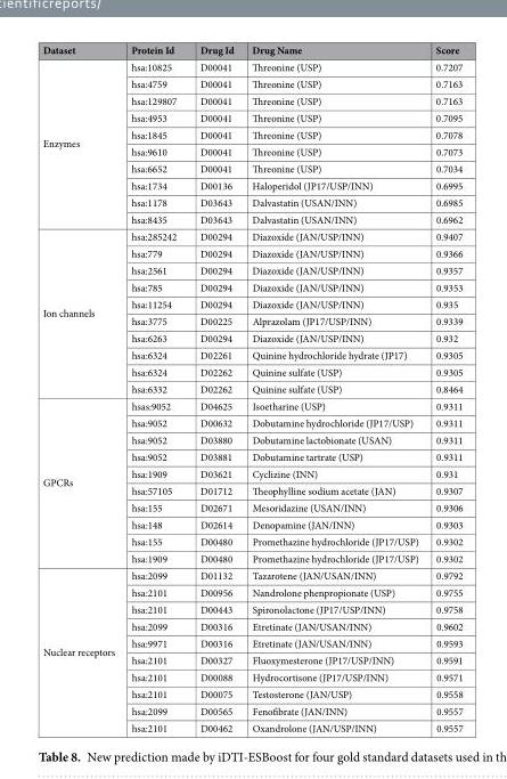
<table><thead><tr><td>Dataset</td><td>Protein Id</td><td>Drug Id</td><td>Drug Name</td><td>Score</td></tr></thead><tbody><tr><td rowspan="10">Enzymes</td><td>hsa:10825</td><td>D00041</td><td>Threonine (USP)</td><td>0.7207</td></tr><tr><td>hsa:4759</td><td>D00041</td><td>Threonine (USP)</td><td>0.7163</td></tr><tr><td>hsa:129807</td><td>D00041</td><td>Threonine (USP)</td><td>0.7163</td></tr><tr><td>hsa:4953</td><td>D00041</td><td>Threonine (USP)</td><td>0.7095</td></tr><tr><td>hsa:1845</td><td>D00041</td><td>Threonine (USP)</td><td>0.7078</td></tr><tr><td>hsa:9610</td><td>D00041</td><td>Threonine (USP)</td><td>0.7073</td></tr><tr><td>hsa:6652</td><td>D00041</td><td>Threonine (USP)</td><td>0.7034</td></tr><tr><td>hsa:1734</td><td>D00136</td><td>Haloperidol (JP17/USP/INN)</td><td>0.6995</td></tr><tr><td>hsa:1178</td><td>D03643</td><td>Dalvastatin (USAN/INN)</td><td>0.6985</td></tr><tr><td>hsa:8435</td><td>D03643</td><td>Dalvastatin (USAN/INN)</td><td>0.6962</td></tr><tr><td rowspan="10">Ion channels</td><td>hsa:285242</td><td>D00294</td><td>Diazoxide (JAN/USP/INN)</td><td>0.9407</td></tr><tr><td>hsa:779</td><td>D00294</td><td>Diazoxide (JAN/USP/INN)</td><td>0.9366</td></tr><tr><td>hsa:2561</td><td>D00294</td><td>Diazoxide (JAN/USP/INN)</td><td>0.9357</td></tr><tr><td>hsa:785</td><td>D00294</td><td>Diazoxide (JAN/USP/INN)</td><td>0.9353</td></tr><tr><td>hsa:11254</td><td>D00294</td><td>Diazoxide (JAN/USP/INN)</td><td>0.935</td></tr><tr><td>hsa:3775</td><td>D00225</td><td>Alprazolam (JP17/USP/INN)</td><td>0.9339</td></tr><tr><td>hsa:6263</td><td>D00294</td><td>Diazoxide (JAN/USP/INN)</td><td>0.932</td></tr><tr><td>hsa:6324</td><td>D02261</td><td>Quinine hydrochloride hydrate (JP17)</td><td>0.9305</td></tr><tr><td>hsa:6324</td><td>D02262</td><td>Quinine sulfate (USP)</td><td>0.9305</td></tr><tr><td>hsa:6332</td><td>D02262</td><td>Quinine sulfate (USP)</td><td>0.8464</td></tr><tr><td rowspan="10">GPCRs</td><td>hsas:9052</td><td>D04625</td><td>Isoetharine (USP)</td><td>0.9311</td></tr><tr><td>hsa:9052</td><td>D00632</td><td>Dobutamine hydrochloride (JP17/USP)</td><td>0.9311</td></tr><tr><td>hsa:9052</td><td>D03880</td><td>Dobutamine lactobionate (USAN)</td><td>0.9311</td></tr><tr><td>hsa:9052</td><td>D03881</td><td>Dobutamine tartrate (USP)</td><td>0.9311</td></tr><tr><td>hsa:1909</td><td>D03621</td><td>Cyclizine (INN)</td><td>0.931</td></tr><tr><td>hsa:57105</td><td>D01712</td><td>Theophylline sodium acetate (JAN)</td><td>0.9307</td></tr><tr><td>hsa:155</td><td>D02671</td><td>Mesoridazine (USAN/INN)</td><td>0.9306</td></tr><tr><td>hsa:148</td><td>D02614</td><td>Denopamine (JAN/INN)</td><td>0.9303</td></tr><tr><td>hsa:155</td><td>D00480</td><td>Promethazine hydrochloride (JP17/USP)</td><td>0.9302</td></tr><tr><td>hsa:1909</td><td>D00480</td><td>Promethazine hydrochloride (JP17/USP)</td><td>0.9302</td></tr><tr><td rowspan="10">Nuclear receptors</td><td>hsa:2099</td><td>D01132</td><td>Tazarotene (JAN/USAN/INN)</td><td>0.9792</td></tr><tr><td>hsa:2101</td><td>D00956</td><td>Nandrolone phenpropionate (USP)</td><td>0.9755</td></tr><tr><td>hsa:2101</td><td>D00443</td><td>Spironolactone (JP17/USP/INN)</td><td>0.9758</td></tr><tr><td>hsa:2099</td><td>D00316</td><td>Etretinate (JAN/USAN/INN)</td><td>0.9602</td></tr><tr><td>hsa:9971</td><td>D00316</td><td>Etretinate (JAN/USAN/INN)</td><td>0.9593</td></tr><tr><td>hsa:2101</td><td>D00327</td><td>Fluoxymesterone (JP17/USP/INN)</td><td>0.9591</td></tr><tr><td>hsa:2101</td><td>D00088</td><td>Hydrocortisone (JP17/USP/INN)</td><td>0.9571</td></tr><tr><td>hsa:2101</td><td>D00075</td><td>Testosterone (JAN/USP)</td><td>0.9558</td></tr><tr><td>hsa:2099</td><td>D00565</td><td>Fenofibrate (JAN/INN)</td><td>0.9557</td></tr><tr><td>hsa:2101</td><td>D00462</td><td>Oxandrolone (JAN/USP/INN)</td><td>0.9557</td></tr></tbody></table>